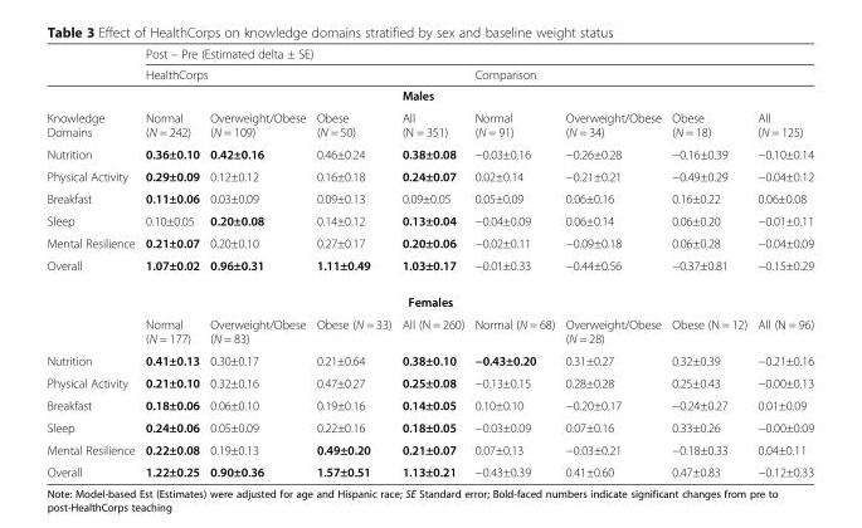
<table><thead><tr><td rowspan="3"></td><td colspan="8">Post – Pre (Estimated delta ± SE)</td></tr><tr><td colspan="4">HealthCorps</td><td colspan="4">Comparison</td></tr><tr><td></td><td></td><td></td><td>Males</td><td></td><td></td><td></td><td></td></tr></thead><tbody><tr><td>Knowledge Domains</td><td>Normal (N = 242)</td><td>Overweight/Obese (N = 109)</td><td>Obese (N = 50)</td><td>All (N = 351)</td><td>Normal (N = 91)</td><td>Overweight/Obese (N = 34)</td><td>Obese (N = 18)</td><td>All (N = 125)</td></tr><tr><td>Nutrition</td><td>0.36±0.10</td><td>0.42±0.16</td><td>0.46±0.24</td><td>0.38±0.08</td><td>−0.03±0.16</td><td>−0.26±0.28</td><td>−0.16±0.39</td><td>−0.10±0.14</td></tr><tr><td>Physical Activity</td><td>0.29±0.09</td><td>0.12±0.12</td><td>0.16±0.18</td><td>0.24±0.07</td><td>0.02±0.14</td><td>−0.21±0.21</td><td>−0.49±0.29</td><td>−0.04±0.12</td></tr><tr><td>Breakfast</td><td>0.11±0.06</td><td>0.03±0.09</td><td>0.09±0.13</td><td>0.09±0.05</td><td>0.05±0.09</td><td>0.06±0.16</td><td>0.16±0.22</td><td>0.06±0.08</td></tr><tr><td>Sleep</td><td>0.10±0.05</td><td>0.20±0.08</td><td>0.14±0.12</td><td>0.13±0.04</td><td>−0.04±0.09</td><td>0.06±0.14</td><td>0.06±0.20</td><td>−0.01±0.11</td></tr><tr><td>Mental Resilience</td><td>0.21±0.07</td><td>0.20±0.10</td><td>0.27±0.17</td><td>0.20±0.06</td><td>−0.02±0.11</td><td>−0.09±0.18</td><td>0.06±0.28</td><td>−0.04±0.09</td></tr><tr><td>Overall</td><td>1.07±0.02</td><td>0.96±0.31</td><td>1.11±0.49</td><td>1.03±0.17</td><td>−0.01±0.33</td><td>−0.44±0.56</td><td>−0.37±0.81</td><td>−0.15±0.29</td></tr><tr><td colspan="9">Females</td></tr><tr><td></td><td>Normal (N = 177)</td><td>Overweight/Obese (N = 83)</td><td>Obese (N = 33)</td><td>All (N = 260)</td><td>Normal (N = 68)</td><td>Overweight/Obese (N = 28)</td><td>Obese (N = 12)</td><td>All (N = 96)</td></tr><tr><td>Nutrition</td><td>0.41±0.13</td><td>0.30±0.17</td><td>0.21±0.64</td><td>0.38±0.10</td><td>−0.43±0.20</td><td>0.31±0.27</td><td>0.32±0.39</td><td>−0.21±0.16</td></tr><tr><td>Physical Activity</td><td>0.21±0.10</td><td>0.32±0.16</td><td>0.47±0.27</td><td>0.25±0.08</td><td>−0.13±0.15</td><td>0.28±0.28</td><td>0.25±0.43</td><td>−0.00±0.13</td></tr><tr><td>Breakfast</td><td>0.18±0.06</td><td>0.06±0.10</td><td>0.19±0.16</td><td>0.14±0.05</td><td>0.10±0.10</td><td>−0.20±0.17</td><td>−0.24±0.27</td><td>0.01±0.09</td></tr><tr><td>Sleep</td><td>0.24±0.06</td><td>0.05±0.09</td><td>0.22±0.16</td><td>0.18±0.05</td><td>−0.03±0.09</td><td>0.07±0.16</td><td>0.33±0.26</td><td>−0.00±0.09</td></tr><tr><td>Mental Resilience</td><td>0.22±0.08</td><td>0.19±0.13</td><td>0.49±0.20</td><td>0.21±0.07</td><td>0.07±0.13</td><td>−0.03±0.21</td><td>−0.18±0.33</td><td>0.04±0.11</td></tr><tr><td>Overall</td><td>1.22±0.25</td><td>0.90±0.36</td><td>1.57±0.51</td><td>1.13±0.21</td><td>−0.43±0.39</td><td>0.41±0.60</td><td>0.47±0.83</td><td>−0.12±0.33</td></tr></tbody></table>